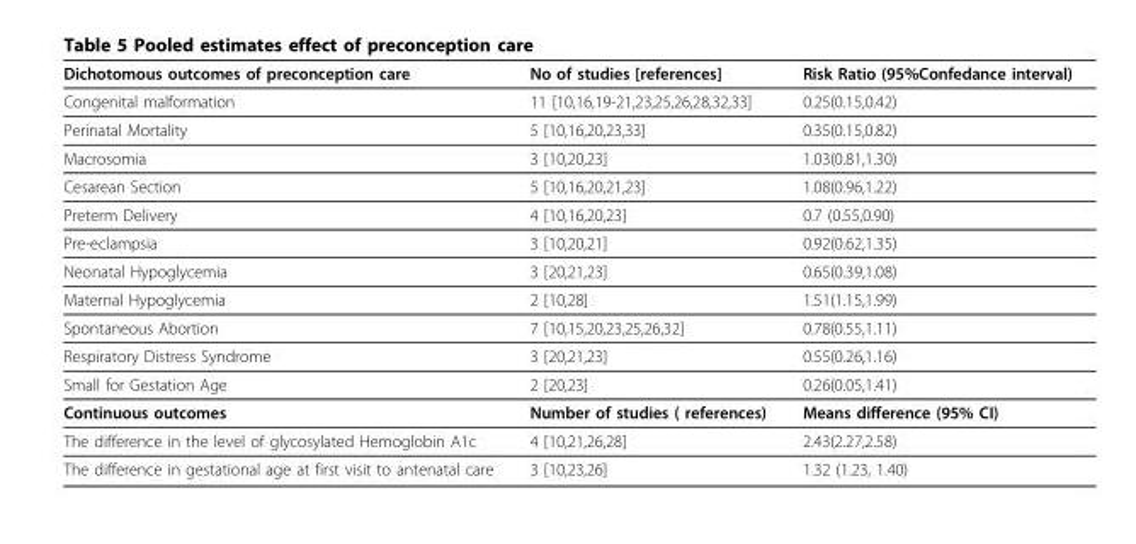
<table><thead><tr><td>Dichotomous outcomes of preconception care</td><td>No of studies [references]</td><td>Risk Ratio (95%Confedance interval)</td></tr></thead><tbody><tr><td>Congenital malformation</td><td>11 [10,16,19-21,23,25,26,28,32,33]</td><td>0.25(0.15,0.42)</td></tr><tr><td>Perinatal Mortality</td><td>5 [10,16,20,23,33]</td><td>0.35(0.15,0.82)</td></tr><tr><td>Macrosomia</td><td>3 [10,20,23]</td><td>1.03(0.81,1.30)</td></tr><tr><td>Cesarean Section</td><td>5 [10,16,20,21,23]</td><td>1.08(0.96,1.22)</td></tr><tr><td>Preterm Delivery</td><td>4 [10,16,20,23]</td><td>0.7 (0.55,0.90)</td></tr><tr><td>Pre-eclampsia</td><td>3 [10,20,21]</td><td>0.92(0.62,1.35)</td></tr><tr><td>Neonatal Hypoglycemia</td><td>3 [20,21,23]</td><td>0.65(0.39,1.08)</td></tr><tr><td>Maternal Hypoglycemia</td><td>2 [10,28]</td><td>1.51(1.15,1.99)</td></tr><tr><td>Spontaneous Abortion</td><td>7 [10,15,20,23,25,26,32]</td><td>0.78(0.55,1.11)</td></tr><tr><td>Respiratory Distress Syndrome</td><td>3 [20,21,23]</td><td>0.55(0.26,1.16)</td></tr><tr><td>Small for Gestation Age</td><td>2 [20,23]</td><td>0.26(0.05,1.41)</td></tr><tr><td>Continuous outcomes</td><td>Number of studies ( references)</td><td>Means difference (95% CI)</td></tr><tr><td>The difference in the level of glycosylated Hemoglobin A1c</td><td>4 [10,21,26,28]</td><td>2.43(2.27,2.58)</td></tr><tr><td>The difference in gestational age at first visit to antenatal care</td><td>3 [10,23,26]</td><td>1.32 (1.23, 1.40)</td></tr></tbody></table>